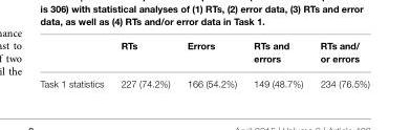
<table><thead><tr><td></td><td>RTs</td><td>Errors</td><td>RTs and errors</td><td>RTs and/ or errors</td></tr></thead><tbody><tr><td>Task 1 statistics</td><td>227 (74.2%)</td><td>166 (54.2%)</td><td>149 (48.7%)</td><td>234 (76.5%)</td></tr></tbody></table>